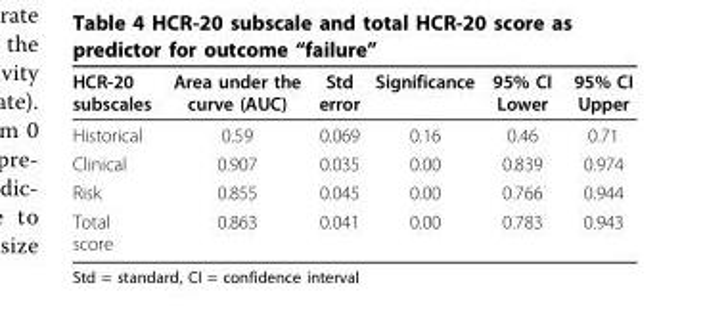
<table><thead><tr><td>HCR-20 subscales</td><td>Area under the curve (AUC)</td><td>Std error</td><td>Significance</td><td>95% CI Lower</td><td>95% CI Upper</td></tr></thead><tbody><tr><td>Historical</td><td>0.59</td><td>0.069</td><td>0.16</td><td>0.46</td><td>0.71</td></tr><tr><td>Clinical</td><td>0.907</td><td>0.035</td><td>0.00</td><td>0.839</td><td>0.974</td></tr><tr><td>Risk</td><td>0.855</td><td>0.045</td><td>0.00</td><td>0.766</td><td>0.944</td></tr><tr><td>Total score</td><td>0.863</td><td>0.041</td><td>0.00</td><td>0.783</td><td>0.943</td></tr></tbody></table>